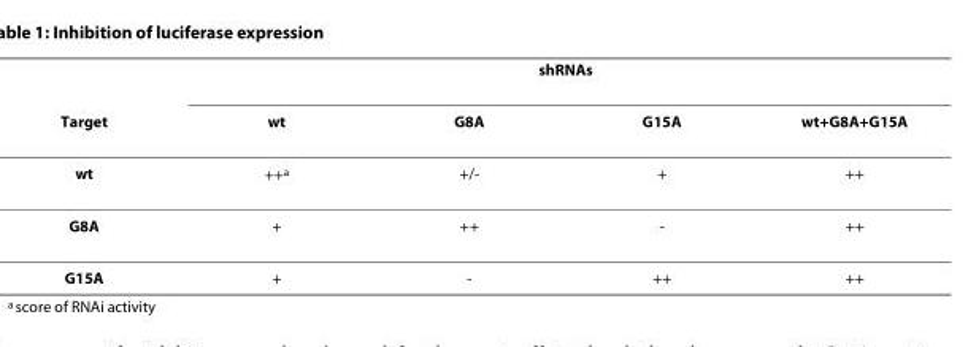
<table><thead><tr><td rowspan="2">Target</td><td colspan="4">shRNAs</td></tr><tr><td>wt</td><td>G8A</td><td>G15A</td><td>wt+G8A+G15A</td></tr></thead><tbody><tr><td>wt</td><td>++<sup>a</sup></td><td>+/-</td><td>+</td><td>++</td></tr><tr><td>G8A</td><td>+</td><td>++</td><td>-</td><td>++</td></tr><tr><td>G15A</td><td>+</td><td>-</td><td>++</td><td>++</td></tr></tbody></table>